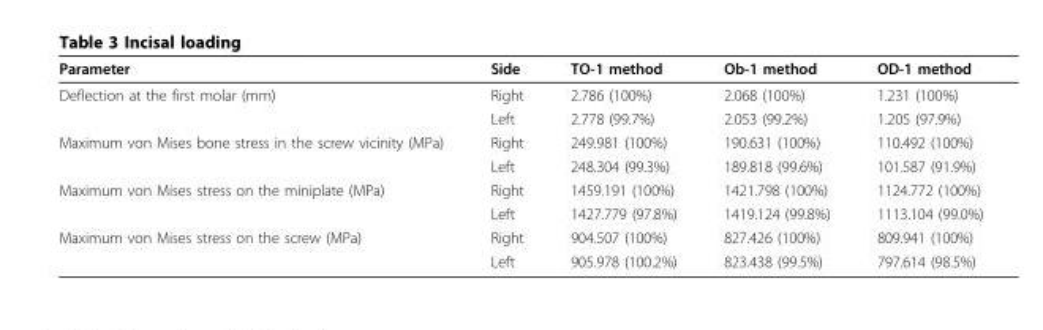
<table><thead><tr><td>Parameter</td><td>Side</td><td>TO-1 method</td><td>Ob-1 method</td><td>OD-1 method</td></tr></thead><tbody><tr><td rowspan="2">Deflection at the first molar (mm)</td><td>Right</td><td>2.786 (100%)</td><td>2.068 (100%)</td><td>1.231 (100%)</td></tr><tr><td>Left</td><td>2.778 (99.7%)</td><td>2.053 (99.2%)</td><td>1.205 (97.9%)</td></tr><tr><td rowspan="2">Maximum von Mises bone stress in the screw vicinity (MPa)</td><td>Right</td><td>249.981 (100%)</td><td>190.631 (100%)</td><td>110.492 (100%)</td></tr><tr><td>Left</td><td>248.304 (99.3%)</td><td>189.818 (99.6%)</td><td>101.587 (91.9%)</td></tr><tr><td rowspan="2">Maximum von Mises stress on the miniplate (MPa)</td><td>Right</td><td>1459.191 (100%)</td><td>1421.798 (100%)</td><td>1124.772 (100%)</td></tr><tr><td>Left</td><td>1427.779 (97.8%)</td><td>1419.124 (99.8%)</td><td>1113.104 (99.0%)</td></tr><tr><td rowspan="2">Maximum von Mises stress on the screw (MPa)</td><td>Right</td><td>904.507 (100%)</td><td>827.426 (100%)</td><td>809.941 (100%)</td></tr><tr><td>Left</td><td>905.978 (100.2%)</td><td>823.438 (99.5%)</td><td>797.614 (98.5%)</td></tr></tbody></table>